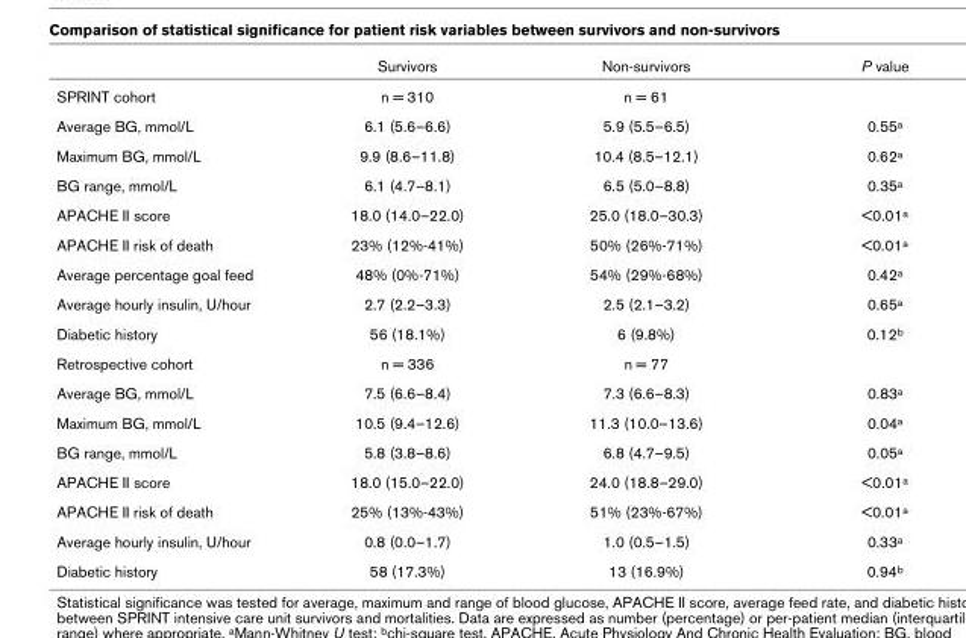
<table><thead><tr><td></td><td>Survivors</td><td>Non-survivors</td><td>P value</td></tr></thead><tbody><tr><td>SPRINT cohort</td><td>n = 310</td><td>n = 61</td><td></td></tr><tr><td>Average BG, mmol/L</td><td>6.1 (5.6–6.6)</td><td>5.9 (5.5–6.5)</td><td>0.55<sup>a</sup></td></tr><tr><td>Maximum BG, mmol/L</td><td>9.9 (8.6–11.8)</td><td>10.4 (8.5–12.1)</td><td>0.62<sup>a</sup></td></tr><tr><td>BG range, mmol/L</td><td>6.1 (4.7–8.1)</td><td>6.5 (5.0–8.8)</td><td>0.35<sup>a</sup></td></tr><tr><td>APACHE II score</td><td>18.0 (14.0–22.0)</td><td>25.0 (18.0–30.3)</td><td>&lt;0.01<sup>a</sup></td></tr><tr><td>APACHE II risk of death</td><td>23% (12%-41%)</td><td>50% (26%-71%)</td><td>&lt;0.01<sup>a</sup></td></tr><tr><td>Average percentage goal feed</td><td>48% (0%-71%)</td><td>54% (29%-68%)</td><td>0.42<sup>a</sup></td></tr><tr><td>Average hourly insulin, U/hour</td><td>2.7 (2.2–3.3)</td><td>2.5 (2.1–3.2)</td><td>0.65<sup>a</sup></td></tr><tr><td>Diabetic history</td><td>56 (18.1%)</td><td>6 (9.8%)</td><td>0.12<sup>b</sup></td></tr><tr><td>Retrospective cohort</td><td>n = 336</td><td>n = 77</td><td></td></tr><tr><td>Average BG, mmol/L</td><td>7.5 (6.6–8.4)</td><td>7.3 (6.6–8.3)</td><td>0.83<sup>a</sup></td></tr><tr><td>Maximum BG, mmol/L</td><td>10.5 (9.4–12.6)</td><td>11.3 (10.0–13.6)</td><td>0.04<sup>a</sup></td></tr><tr><td>BG range, mmol/L</td><td>5.8 (3.8–8.6)</td><td>6.8 (4.7–9.5)</td><td>0.05<sup>a</sup></td></tr><tr><td>APACHE II score</td><td>18.0 (15.0–22.0)</td><td>24.0 (18.8–29.0)</td><td>&lt;0.01<sup>a</sup></td></tr><tr><td>APACHE II risk of death</td><td>25% (13%-43%)</td><td>51% (23%-67%)</td><td>&lt;0.01<sup>a</sup></td></tr><tr><td>Average hourly insulin, U/hour</td><td>0.8 (0.0–1.7)</td><td>1.0 (0.5–1.5)</td><td>0.33<sup>a</sup></td></tr><tr><td>Diabetic history</td><td>58 (17.3%)</td><td>13 (16.9%)</td><td>0.94<sup>b</sup></td></tr></tbody></table>